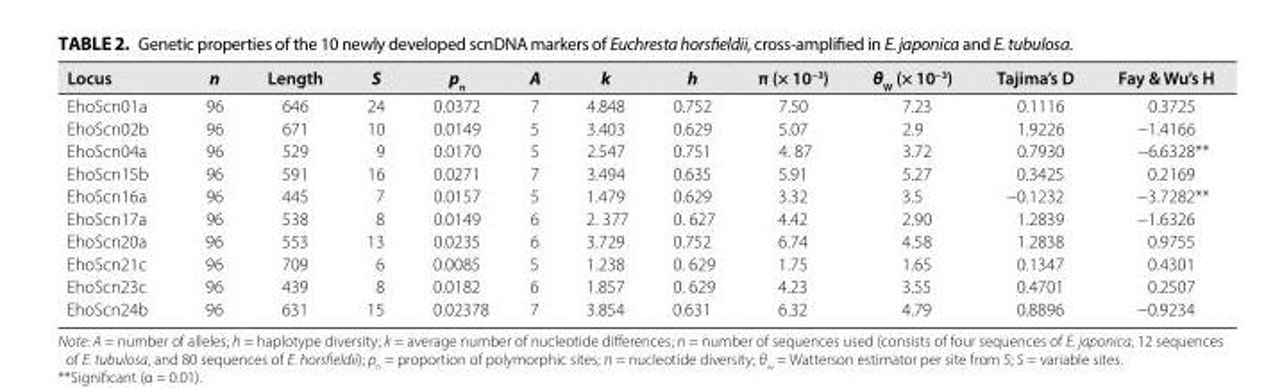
<table><thead><tr><td>Locus</td><td>n</td><td>Length</td><td>S</td><td>p<sub>n</sub></td><td>A</td><td>k</td><td>h</td><td>π (× 10<sup>−3</sup>)</td><td>θ<sub>W</sub> (× 10<sup>−3</sup>)</td><td>Tajima’s D</td><td>Fay &amp; Wu’s H</td></tr></thead><tbody><tr><td>EhoScn01a</td><td>96</td><td>646</td><td>24</td><td>0.0372</td><td>7</td><td>4.848</td><td>0.752</td><td>7.50</td><td>7.23</td><td>0.1116</td><td>0.3725</td></tr><tr><td>EhoScn02b</td><td>96</td><td>671</td><td>10</td><td>0.0149</td><td>5</td><td>3.403</td><td>0.629</td><td>5.07</td><td>2.9</td><td>1.9226</td><td>−1.4166</td></tr><tr><td>EhoScn04a</td><td>96</td><td>529</td><td>9</td><td>0.0170</td><td>5</td><td>2.547</td><td>0.751</td><td>4. 87</td><td>3.72</td><td>0.7930</td><td>−6.6328**</td></tr><tr><td>EhoScn15b</td><td>96</td><td>591</td><td>16</td><td>0.0271</td><td>7</td><td>3.494</td><td>0.635</td><td>5.91</td><td>5.27</td><td>0.3425</td><td>0.2169</td></tr><tr><td>EhoScn16a</td><td>96</td><td>445</td><td>7</td><td>0.0157</td><td>5</td><td>1.479</td><td>0.629</td><td>3.32</td><td>3.5</td><td>−0.1232</td><td>−3.7282**</td></tr><tr><td>EhoScn17a</td><td>96</td><td>538</td><td>8</td><td>0.0149</td><td>6</td><td>2. 377</td><td>0. 627</td><td>4.42</td><td>2.90</td><td>1.2839</td><td>−1.6326</td></tr><tr><td>EhoScn20a</td><td>96</td><td>553</td><td>13</td><td>0.0235</td><td>6</td><td>3.729</td><td>0.752</td><td>6.74</td><td>4.58</td><td>1.2838</td><td>0.9755</td></tr><tr><td>EhoScn21c</td><td>96</td><td>709</td><td>6</td><td>0.0085</td><td>5</td><td>1.238</td><td>0. 629</td><td>1.75</td><td>1.65</td><td>0.1347</td><td>0.4301</td></tr><tr><td>EhoScn23c</td><td>96</td><td>439</td><td>8</td><td>0.0182</td><td>6</td><td>1.857</td><td>0. 629</td><td>4.23</td><td>3.55</td><td>0.4701</td><td>0.2507</td></tr><tr><td>EhoScn24b</td><td>96</td><td>631</td><td>15</td><td>0.02378</td><td>7</td><td>3.854</td><td>0.631</td><td>6.32</td><td>4.79</td><td>0.8896</td><td>−0.9234</td></tr></tbody></table>